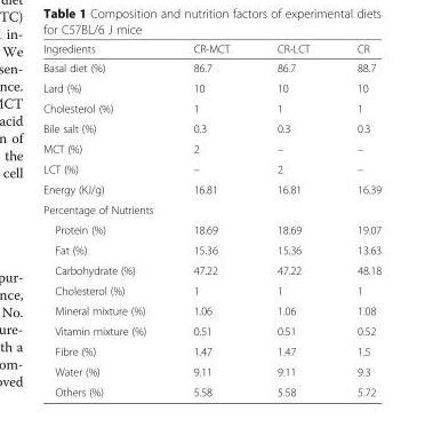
<table><thead><tr><td>Ingredients</td><td>CR-MCT</td><td>CR-LCT</td><td>CR</td></tr></thead><tbody><tr><td>Basal diet (%)</td><td>86.7</td><td>86.7</td><td>88.7</td></tr><tr><td>Lard (%)</td><td>10</td><td>10</td><td>10</td></tr><tr><td>Cholesterol (%)</td><td>1</td><td>1</td><td>1</td></tr><tr><td>Bile salt (%)</td><td>0.3</td><td>0.3</td><td>0.3</td></tr><tr><td>MCT (%)</td><td>2</td><td>–</td><td>–</td></tr><tr><td>LCT (%)</td><td>–</td><td>2</td><td>–</td></tr><tr><td>Energy (KJ/g)</td><td>16.81</td><td>16.81</td><td>16.39</td></tr><tr><td colspan="4">Percentage of Nutrients</td></tr><tr><td>Protein (%)</td><td>18.69</td><td>18.69</td><td>19.07</td></tr><tr><td>Fat (%)</td><td>15.36</td><td>15.36</td><td>13.63</td></tr><tr><td>Carbohydrate (%)</td><td>47.22</td><td>47.22</td><td>48.18</td></tr><tr><td>Cholesterol (%)</td><td>1</td><td>1</td><td>1</td></tr><tr><td>Mineral mixture (%)</td><td>1.06</td><td>1.06</td><td>1.08</td></tr><tr><td>Vitamin mixture (%)</td><td>0.51</td><td>0.51</td><td>0.52</td></tr><tr><td>Fibre (%)</td><td>1.47</td><td>1.47</td><td>1.5</td></tr><tr><td>Water (%)</td><td>9.11</td><td>9.11</td><td>9.3</td></tr><tr><td>Others (%)</td><td>5.58</td><td>5.58</td><td>5.72</td></tr></tbody></table>